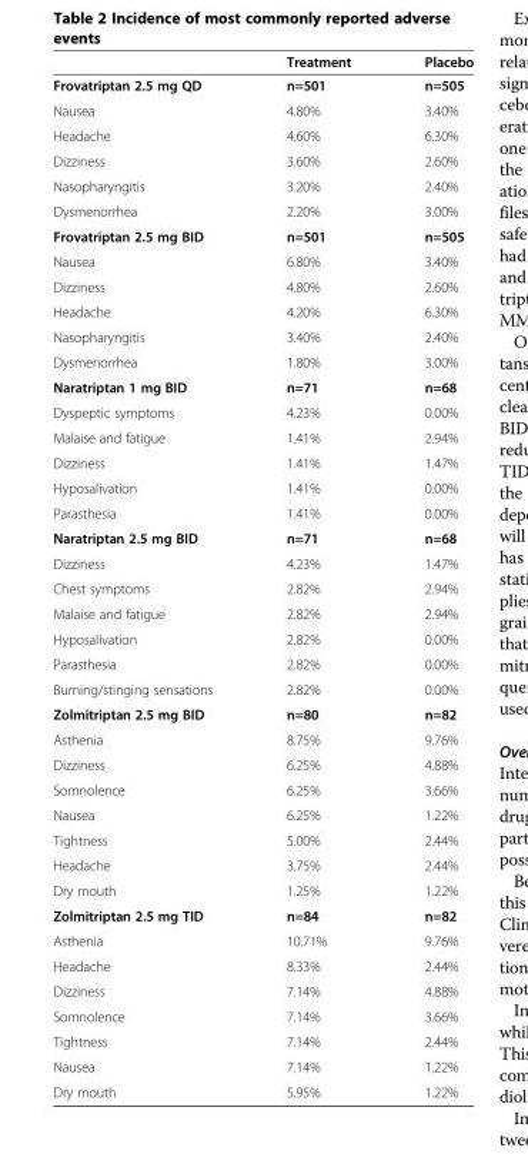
<table><thead><tr><td></td><td>Treatment</td><td>Placebo</td></tr></thead><tbody><tr><td>Frovatriptan 2.5 mg QD</td><td>n=501</td><td>n=505</td></tr><tr><td>Nausea</td><td>4.80%</td><td>3.40%</td></tr><tr><td>Headache</td><td>4.60%</td><td>6.30%</td></tr><tr><td>Dizziness</td><td>3.60%</td><td>2.60%</td></tr><tr><td>Nasopharyngitis</td><td>3.20%</td><td>2.40%</td></tr><tr><td>Dysmenorrhea</td><td>2.20%</td><td>3.00%</td></tr><tr><td>Frovatriptan 2.5 mg BID</td><td>n=501</td><td>n=505</td></tr><tr><td>Nausea</td><td>6.80%</td><td>3.40%</td></tr><tr><td>Dizziness</td><td>4.80%</td><td>2.60%</td></tr><tr><td>Headache</td><td>4.20%</td><td>6.30%</td></tr><tr><td>Nasopharyngitis</td><td>3.40%</td><td>2.40%</td></tr><tr><td>Dysmenorrhea</td><td>1.80%</td><td>3.00%</td></tr><tr><td>Naratriptan 1 mg BID</td><td>n=71</td><td>n=68</td></tr><tr><td>Dyspeptic symptoms</td><td>4.23%</td><td>0.00%</td></tr><tr><td>Malaise and fatigue</td><td>1.41%</td><td>2.94%</td></tr><tr><td>Dizziness</td><td>1.41%</td><td>1.47%</td></tr><tr><td>Hyposalivation</td><td>1.41%</td><td>0.00%</td></tr><tr><td>Parasthesia</td><td>1.41%</td><td>0.00%</td></tr><tr><td>Naratriptan 2.5 mg BID</td><td>n=71</td><td>n=68</td></tr><tr><td>Dizziness</td><td>4.23%</td><td>1.47%</td></tr><tr><td>Chest symptoms</td><td>2.82%</td><td>2.94%</td></tr><tr><td>Malaise and fatigue</td><td>2.82%</td><td>2.94%</td></tr><tr><td>Hyposalivation</td><td>2.82%</td><td>0.00%</td></tr><tr><td>Parasthesia</td><td>2.82%</td><td>0.00%</td></tr><tr><td>Burning/stinging sensations</td><td>2.82%</td><td>0.00%</td></tr><tr><td>Zolmitriptan 2.5 mg BID</td><td>n=80</td><td>n=82</td></tr><tr><td>Asthenia</td><td>8.75%</td><td>9.76%</td></tr><tr><td>Dizziness</td><td>6.25%</td><td>4.88%</td></tr><tr><td>Somnolence</td><td>6.25%</td><td>3.66%</td></tr><tr><td>Nausea</td><td>6.25%</td><td>1.22%</td></tr><tr><td>Tightness</td><td>5.00%</td><td>2.44%</td></tr><tr><td>Headache</td><td>3.75%</td><td>2.44%</td></tr><tr><td>Dry mouth</td><td>1.25%</td><td>1.22%</td></tr><tr><td>Zolmitriptan 2.5 mg TID</td><td>n=84</td><td>n=82</td></tr><tr><td>Asthenia</td><td>10.71%</td><td>9.76%</td></tr><tr><td>Headache</td><td>8.33%</td><td>2.44%</td></tr><tr><td>Dizziness</td><td>7.14%</td><td>4.88%</td></tr><tr><td>Somnolence</td><td>7.14%</td><td>3.66%</td></tr><tr><td>Tightness</td><td>7.14%</td><td>2.44%</td></tr><tr><td>Nausea</td><td>7.14%</td><td>1.22%</td></tr><tr><td>Dry mouth</td><td>5.95%</td><td>1.22%</td></tr></tbody></table>